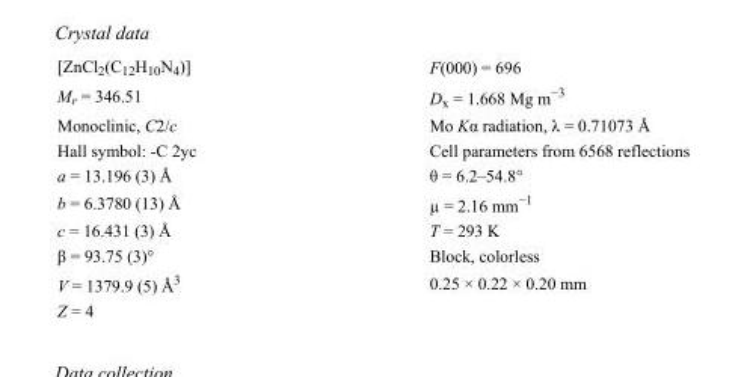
<table><tbody><tr><td>[ZnCl<sub>2</sub>(C<sub>12</sub>H<sub>10</sub>N<sub>4</sub>)]</td><td>F(000) = 696</td></tr><tr><td>M<sub>r</sub> = 346.51</td><td>D<sub>x</sub> = 1.668 Mg m<sup>−3</sup></td></tr><tr><td>Monoclinic, C2/c</td><td>Mo Kα radiation, λ = 0.71073 Å</td></tr><tr><td>Hall symbol: -C 2yc</td><td>Cell parameters from 6568 reflections</td></tr><tr><td>a = 13.196 (3) Å</td><td>θ = 6.2–54.8°</td></tr><tr><td>b = 6.3780 (13) Å</td><td>µ = 2.16 mm<sup>−1</sup></td></tr><tr><td>c = 16.431 (3) Å</td><td>T = 293 K</td></tr><tr><td>β = 93.75 (3)°</td><td>Block, colorless</td></tr><tr><td>V = 1379.9 (5) Å<sup>3</sup></td><td>0.25 × 0.22 × 0.20 mm</td></tr><tr><td>Z = 4</td><td></td></tr></tbody></table>